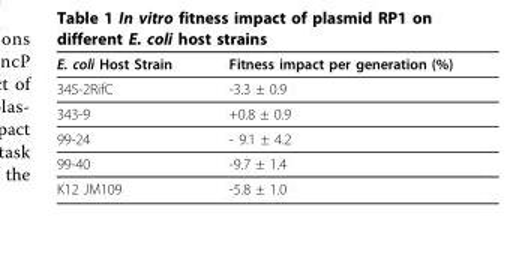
<table><thead><tr><td>E. coli Host Strain</td><td>Fitness impact per generation (%)</td></tr></thead><tbody><tr><td>345-2RifC</td><td>-3.3 ± 0.9</td></tr><tr><td>343-9</td><td>+0.8 ± 0.9</td></tr><tr><td>99-24</td><td>- 9.1 ± 4.2</td></tr><tr><td>99-40</td><td>-9.7 ± 1.4</td></tr><tr><td>K12 JM109</td><td>-5.8 ± 1.0</td></tr></tbody></table>